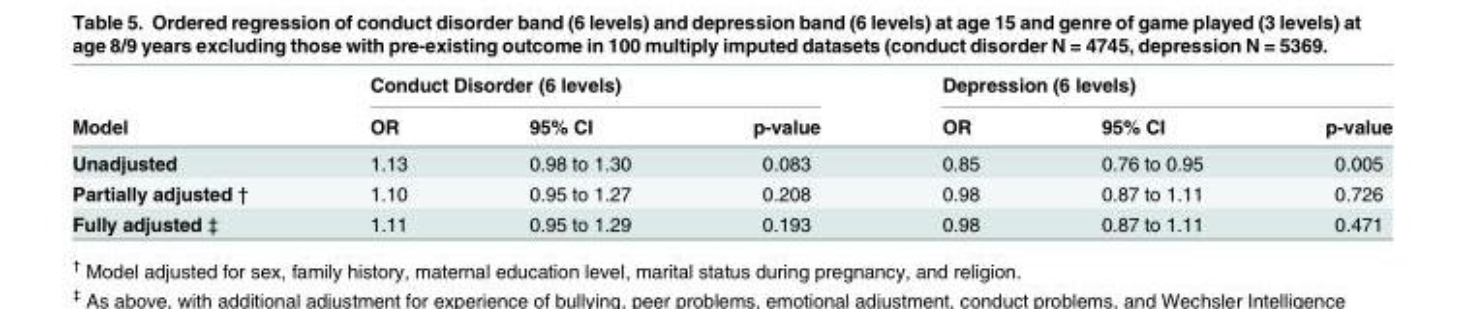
<table><thead><tr><td rowspan="2">Model</td><td colspan="3">Conduct Disorder (6 levels)</td><td colspan="3">Depression (6 levels)</td></tr><tr><td>OR</td><td>95% CI</td><td>p-value</td><td>OR</td><td>95% CI</td><td>p-value</td></tr></thead><tbody><tr><td>Unadjusted</td><td>1.13</td><td>0.98 to 1.30</td><td>0.083</td><td>0.85</td><td>0.76 to 0.95</td><td>0.005</td></tr><tr><td>Partially adjusted †</td><td>1.10</td><td>0.95 to 1.27</td><td>0.208</td><td>0.98</td><td>0.87 to 1.11</td><td>0.726</td></tr><tr><td>Fully adjusted ‡</td><td>1.11</td><td>0.95 to 1.29</td><td>0.193</td><td>0.98</td><td>0.87 to 1.11</td><td>0.471</td></tr></tbody></table>